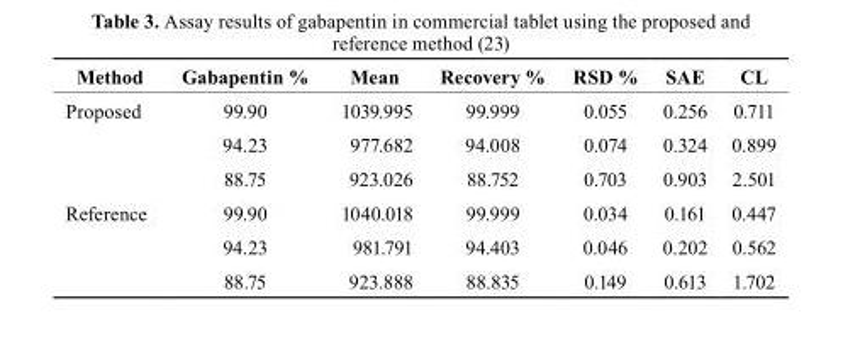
<table><thead><tr><td>Method</td><td>Gabapentin %</td><td>Mean</td><td>Recovery %</td><td>RSD %</td><td>sAE</td><td>cL</td></tr></thead><tbody><tr><td rowspan="3">Proposed</td><td>99.90</td><td>1039.995</td><td>99.999</td><td>0.055</td><td>0.256</td><td>0.711</td></tr><tr><td>94.23</td><td>977.682</td><td>94.008</td><td>0.074</td><td>0.324</td><td>0.899</td></tr><tr><td>88.75</td><td>923.026</td><td>88.752</td><td>0.703</td><td>0.903</td><td>2.501</td></tr><tr><td rowspan="3">Reference</td><td>99.90</td><td>1040.018</td><td>99.999</td><td>0.034</td><td>0.161</td><td>0.447</td></tr><tr><td>94.23</td><td>981.791</td><td>94.403</td><td>0.046</td><td>0.202</td><td>0.562</td></tr><tr><td>88.75</td><td>923.888</td><td>88.835</td><td>0.149</td><td>0.613</td><td>1.702</td></tr></tbody></table>